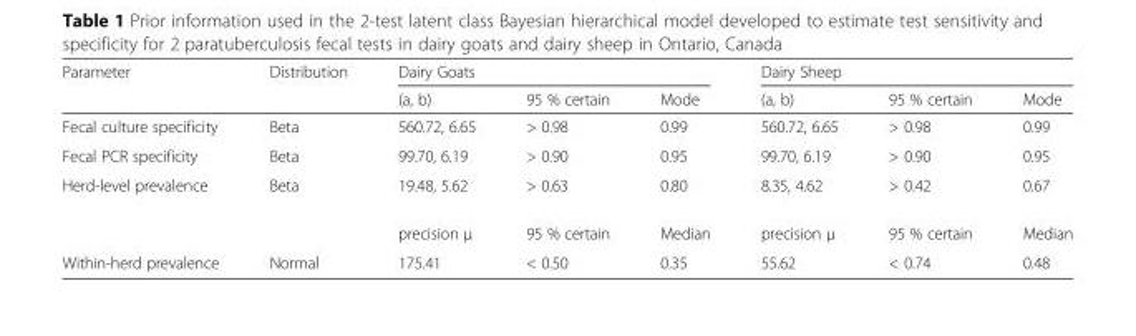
<table><thead><tr><td rowspan="2">Parameter</td><td rowspan="2">Distribution</td><td colspan="3">Dairy Goats</td><td colspan="3">Dairy Sheep</td></tr><tr><td>(a, b)</td><td>95 % certain</td><td>Mode</td><td>(a, b)</td><td>95 % certain</td><td>Mode</td></tr></thead><tbody><tr><td>Fecal culture specificity</td><td>Beta</td><td>560.72, 6.65</td><td>&gt; 0.98</td><td>0.99</td><td>560.72, 6.65</td><td>&gt; 0.98</td><td>0.99</td></tr><tr><td>Fecal PCR specificity</td><td>Beta</td><td>99.70, 6.19</td><td>&gt; 0.90</td><td>0.95</td><td>99.70, 6.19</td><td>&gt; 0.90</td><td>0.95</td></tr><tr><td rowspan="2">Herd-level prevalence</td><td>Beta</td><td>19.48, 5.62</td><td>&gt; 0.63</td><td>0.80</td><td>8.35, 4.62</td><td>&gt; 0.42</td><td>0.67</td></tr><tr><td></td><td>precision μ</td><td>95 % certain</td><td>Median</td><td>precision μ</td><td>95 % certain</td><td>Median</td></tr><tr><td>Within-herd prevalence</td><td>Normal</td><td>175.41</td><td>&lt; 0.50</td><td>0.35</td><td>55.62</td><td>&lt; 0.74</td><td>0.48</td></tr></tbody></table>